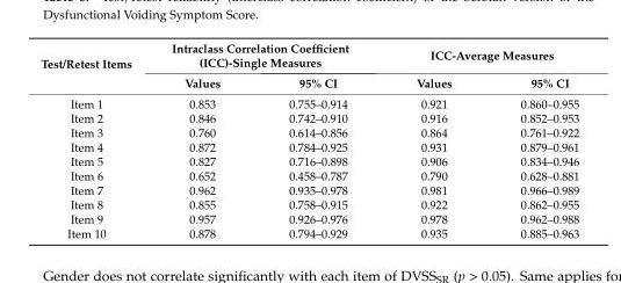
<table><thead><tr><td rowspan="2">Test/Retest Items</td><td colspan="2">Intraclass Correlation Coefficient (ICC)-Single Measures</td><td colspan="2">ICC-Average Measures</td></tr><tr><td>Values</td><td>95% CI</td><td>Values</td><td>95% CI</td></tr></thead><tbody><tr><td>Item 1</td><td>0.853</td><td>0.755–0.914</td><td>0.921</td><td>0.860–0.955</td></tr><tr><td>Item 2</td><td>0.846</td><td>0.742–0.910</td><td>0.916</td><td>0.852–0.953</td></tr><tr><td>Item 3</td><td>0.760</td><td>0.614–0.856</td><td>0.864</td><td>0.761–0.922</td></tr><tr><td>Item 4</td><td>0.872</td><td>0.784–0.925</td><td>0.931</td><td>0.879–0.961</td></tr><tr><td>Item 5</td><td>0.827</td><td>0.716–0.898</td><td>0.906</td><td>0.834–0.946</td></tr><tr><td>Item 6</td><td>0.652</td><td>0.458–0.787</td><td>0.790</td><td>0.628–0.881</td></tr><tr><td>Item 7</td><td>0.962</td><td>0.935–0.978</td><td>0.981</td><td>0.966–0.989</td></tr><tr><td>Item 8</td><td>0.855</td><td>0.758–0.915</td><td>0.922</td><td>0.862–0.955</td></tr><tr><td>Item 9</td><td>0.957</td><td>0.926–0.976</td><td>0.978</td><td>0.962–0.988</td></tr><tr><td>Item 10</td><td>0.878</td><td>0.794–0.929</td><td>0.935</td><td>0.885–0.963</td></tr></tbody></table>